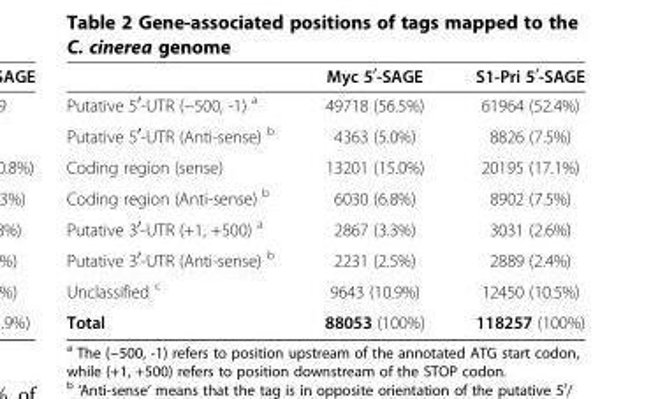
<table><thead><tr><td></td><td>Myc 5<sup>′</sup>-SAGE</td><td>S1-Pri 5<sup>′</sup>-SAGE</td></tr></thead><tbody><tr><td>Putative 5<sup>′</sup>-UTR (−500, -1) <sup>a</sup></td><td>49718 (56.5%)</td><td>61964 (52.4%)</td></tr><tr><td>Putative 5<sup>′</sup>-UTR (Anti-sense) <sup>b</sup></td><td>4363 (5.0%)</td><td>8826 (7.5%)</td></tr><tr><td>Coding region (sense)</td><td>13201 (15.0%)</td><td>20195 (17.1%)</td></tr><tr><td>Coding region (Anti-sense) <sup>b</sup></td><td>6030 (6.8%)</td><td>8902 (7.5%)</td></tr><tr><td>Putative 3<sup>′</sup>-UTR (+1, +500) <sup>a</sup></td><td>2867 (3.3%)</td><td>3031 (2.6%)</td></tr><tr><td>Putative 3<sup>′</sup>-UTR (Anti-sense) <sup>b</sup></td><td>2231 (2.5%)</td><td>2889 (2.4%)</td></tr><tr><td>Unclassified <sup>c</sup></td><td>9643 (10.9%)</td><td>12450 (10.5%)</td></tr><tr><td>Total</td><td>88053 (100%)</td><td>118257 (100%)</td></tr></tbody></table>